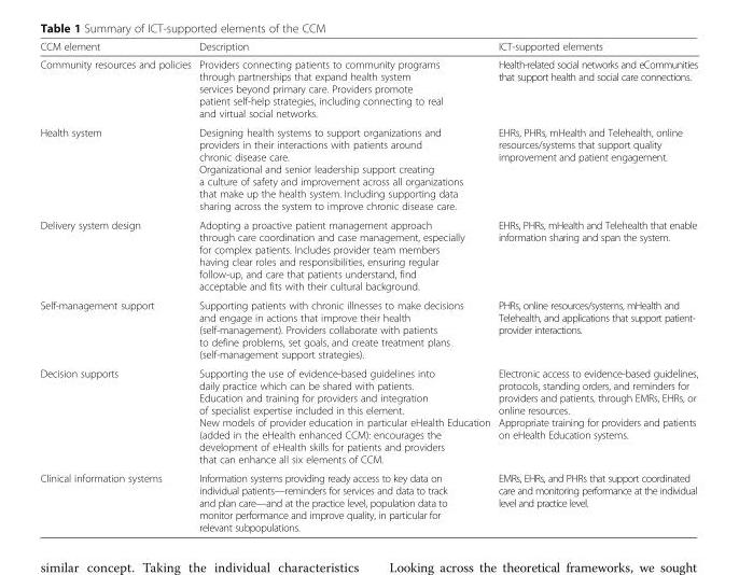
<table><thead><tr><td>CCM element</td><td>Description</td><td>ICT-supported elements</td></tr></thead><tbody><tr><td>Community resources and policies</td><td>Providers connecting patients to community programs through partnerships that expand health system services beyond primary care. Providers promote patient self-help strategies, including connecting to real and virtual social networks.</td><td>Health-related social networks and eCommunities that support health and social care connections.</td></tr><tr><td>Health system</td><td>Designing health systems to support organizations and providers in their interactions with patients around chronic disease care. Organizational and senior leadership support creating a culture of safety and improvement across all organizations that make up the health system. Including supporting data sharing across the system to improve chronic disease care.</td><td>EHRs, PHRs, mHealth and Telehealth, online resources/systems that support quality improvement and patient engagement.</td></tr><tr><td>Delivery system design</td><td>Adopting a proactive patient management approach through care coordination and case management, especially for complex patients. Includes provider team members having clear roles and responsibilities, ensuring regular follow-up, and care that patients understand, find acceptable and fits with their cultural background.</td><td>EHRs, PHRs, mHealth and Telehealth that enable information sharing and span the system.</td></tr><tr><td>Self-management support</td><td>Supporting patients with chronic illnesses to make decisions and engage in actions that improve their health (self-management). Providers collaborate with patients to define problems, set goals, and create treatment plans (self-management support strategies).</td><td>PHRs, online resources/systems, mHealth and Telehealth, and applications that support patient- provider interactions.</td></tr><tr><td>Decision supports</td><td>Supporting the use of evidence-based guidelines into daily practice which can be shared with patients. Education and training for providers and integration of specialist expertise included in this element. New models of provider education in particular eHealth Education (added in the eHealth enhanced CCM): encourages the development of eHealth skills for patients and providers that can enhance all six elements of CCM.</td><td>Electronic access to evidence-based guidelines, protocols, standing orders, and reminders for providers and patients, through EMRs, EHRs, or online resources. Appropriate training for providers and patients on eHealth Education systems.</td></tr><tr><td>Clinical information systems</td><td>Information systems providing ready access to key data on individual patients—reminders for services and data to track and plan care—and at the practice level, population data to monitor performance and improve quality, in particular for relevant subpopulations.</td><td>EMRs, EHRs, and PHRs that support coordinated care and monitoring performance at the individual level and practice level.</td></tr></tbody></table>